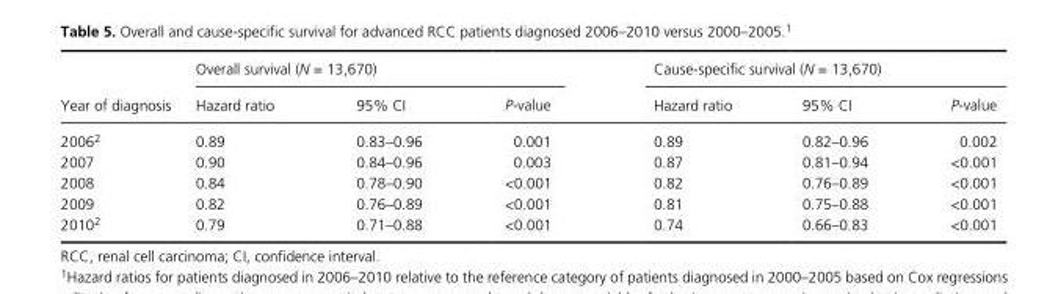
<table><thead><tr><td rowspan="2">Year of diagnosis</td><td colspan="3">Overall survival (N = 13,670)</td><td colspan="3">Cause- specific survival (N = 13,670)</td></tr><tr><td>Hazard ratio</td><td>95% CI</td><td>P- value</td><td>Hazard ratio</td><td>95% CI</td><td>P- value</td></tr></thead><tbody><tr><td>20062</td><td>0.89</td><td>0.83–0.96</td><td>0.001</td><td>0.89</td><td>0.82–0.96</td><td>0.002</td></tr><tr><td>2007</td><td>0.90</td><td>0.84–0.96</td><td>0.003</td><td>0.87</td><td>0.81–0.94</td><td>&lt;0.001</td></tr><tr><td>2008</td><td>0.84</td><td>0.78–0.90</td><td>&lt;0.001</td><td>0.82</td><td>0.76–0.89</td><td>&lt;0.001</td></tr><tr><td>2009</td><td>0.82</td><td>0.76–0.89</td><td>&lt;0.001</td><td>0.81</td><td>0.75–0.88</td><td>&lt;0.001</td></tr><tr><td>20102</td><td>0.79</td><td>0.71–0.88</td><td>&lt;0.001</td><td>0.74</td><td>0.66–0.83</td><td>&lt;0.001</td></tr></tbody></table>